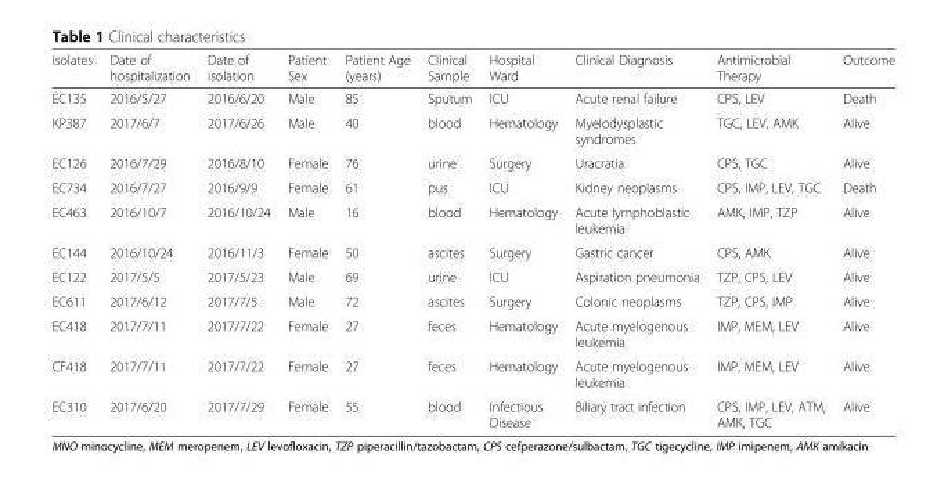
<table><thead><tr><td>Isolates</td><td>Date of hospitalization</td><td>Date of isolation</td><td>Patient Sex</td><td>Patient Age (years)</td><td>Clinical Sample</td><td>Hospital Ward</td><td>Clinical Diagnosis</td><td>Antimicrobial Therapy</td><td>Outcome</td></tr></thead><tbody><tr><td>EC135</td><td>2016/5/27</td><td>2016/6/20</td><td>Male</td><td>85</td><td>Sputum</td><td>ICU</td><td>Acute renal failure</td><td>CPS, LEV</td><td>Death</td></tr><tr><td>KP387</td><td>2017/6/7</td><td>2017/6/26</td><td>Male</td><td>40</td><td>blood</td><td>Hematology</td><td>Myelodysplastic syndromes</td><td>TGC, LEV, AMK</td><td>Alive</td></tr><tr><td>EC126</td><td>2016/7/29</td><td>2016/8/10</td><td>Female</td><td>76</td><td>urine</td><td>Surgery</td><td>Uracratia</td><td>CPS, TGC</td><td>Alive</td></tr><tr><td>EC734</td><td>2016/7/27</td><td>2016/9/9</td><td>Female</td><td>61</td><td>pus</td><td>ICU</td><td>Kidney neoplasms</td><td>CPS, IMP, LEV, TGC</td><td>Death</td></tr><tr><td>EC463</td><td>2016/10/7</td><td>2016/10/24</td><td>Male</td><td>16</td><td>blood</td><td>Hematology</td><td>Acute lymphoblastic leukemia</td><td>AMK, IMP, TZP</td><td>Alive</td></tr><tr><td>EC144</td><td>2016/10/24</td><td>2016/11/3</td><td>Female</td><td>50</td><td>ascites</td><td>Surgery</td><td>Gastric cancer</td><td>CPS, AMK</td><td>Alive</td></tr><tr><td>EC122</td><td>2017/5/5</td><td>2017/5/23</td><td>Male</td><td>69</td><td>urine</td><td>ICU</td><td>Aspiration pneumonia</td><td>TZP, CPS, LEV</td><td>Alive</td></tr><tr><td>EC611</td><td>2017/6/12</td><td>2017/7/5</td><td>Male</td><td>72</td><td>ascites</td><td>Surgery</td><td>Colonic neoplasms</td><td>TZP, CPS, IMP</td><td>Alive</td></tr><tr><td>EC418</td><td>2017/7/11</td><td>2017/7/22</td><td>Female</td><td>27</td><td>feces</td><td>Hematology</td><td>Acute myelogenous leukemia</td><td>IMP, MEM, LEV</td><td>Alive</td></tr><tr><td>CF418</td><td>2017/7/11</td><td>2017/7/22</td><td>Female</td><td>27</td><td>feces</td><td>Hematology</td><td>Acute myelogenous leukemia</td><td>IMP, MEM, LEV</td><td>Alive</td></tr><tr><td>EC310</td><td>2017/6/20</td><td>2017/7/29</td><td>Female</td><td>55</td><td>blood</td><td>Infectious Disease</td><td>Biliary tract infection</td><td>CPS, IMP, LEV, ATM, AMK, TGC</td><td>Alive</td></tr></tbody></table>